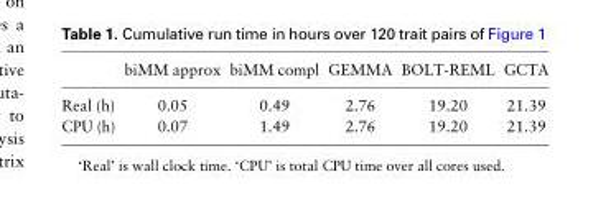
<table><thead><tr><td></td><td>biMM approx</td><td>biMM compl</td><td>GEMMA</td><td>BOLT-REML</td><td>GCTA</td></tr></thead><tbody><tr><td>Real (h)</td><td>0.05</td><td>0.49</td><td>2.76</td><td>19.20</td><td>21.39</td></tr><tr><td>CPU (h)</td><td>0.07</td><td>1.49</td><td>2.76</td><td>19.20</td><td>21.39</td></tr></tbody></table>